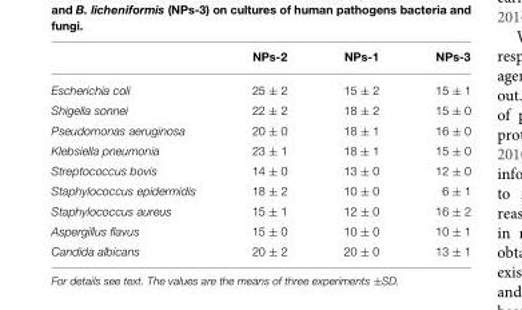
<table><thead><tr><td></td><td>NPs-2</td><td>NPs-1</td><td>NPs-3</td></tr></thead><tbody><tr><td>Escherichia coli</td><td>25 ± 2</td><td>15 ± 2</td><td>15 ± 1</td></tr><tr><td>Shigella sonnei</td><td>22 ± 2</td><td>18 ± 2</td><td>15 ± 0</td></tr><tr><td>Pseudomonas aeruginosa</td><td>20 ± 0</td><td>18 ± 1</td><td>16 ± 0</td></tr><tr><td>Klebsiella pneumonia</td><td>23 ± 1</td><td>18 ± 1</td><td>15 ± 0</td></tr><tr><td>Streptococcus bovis</td><td>14 ± 0</td><td>13 ± 0</td><td>12 ± 0</td></tr><tr><td>Staphylococcus epidermidis</td><td>18 ± 2</td><td>10 ± 0</td><td>6 ± 1</td></tr><tr><td>Staphylococcus aureus</td><td>15 ± 1</td><td>12 ± 0</td><td>16 ± 2</td></tr><tr><td>Aspergillus flavus</td><td>15 ± 0</td><td>10 ± 0</td><td>10 ± 1</td></tr><tr><td>Candida albicans</td><td>20 ± 2</td><td>20 ± 0</td><td>13 ± 1</td></tr></tbody></table>